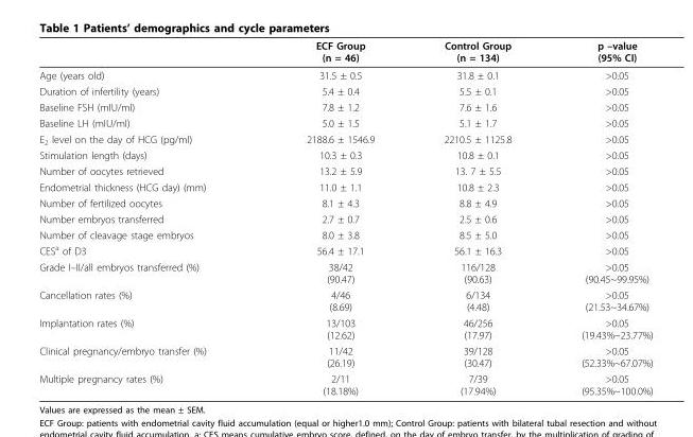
<table><thead><tr><td></td><td>ECF Group (n = 46)</td><td>Control Group (n = 134)</td><td>p –value (95% CI)</td></tr></thead><tbody><tr><td>Age (years old)</td><td>31.5 ± 0.5</td><td>31.8 ± 0.1</td><td>&gt;0.05</td></tr><tr><td>Duration of infertility (years)</td><td>5.4 ± 0.4</td><td>5.5 ± 0.1</td><td>&gt;0.05</td></tr><tr><td>Baseline FSH (mIU/ml)</td><td>7.8 ± 1.2</td><td>7.6 ± 1.6</td><td>&gt;0.05</td></tr><tr><td>Baseline LH (mIU/ml)</td><td>5.0 ± 1.5</td><td>5.1 ± 1.7</td><td>&gt;0.05</td></tr><tr><td>E<sub>2</sub> level on the day of HCG (pg/ml)</td><td>2188.6 ± 1546.9</td><td>2210.5 ± 1125.8</td><td>&gt;0.05</td></tr><tr><td>Stimulation length (days)</td><td>10.3 ± 0.3</td><td>10.8 ± 0.1</td><td>&gt;0.05</td></tr><tr><td>Number of oocytes retrieved</td><td>13.2 ± 5.9</td><td>13. 7 ± 5.5</td><td>&gt;0.05</td></tr><tr><td>Endometrial thickness (HCG day) (mm)</td><td>11.0 ± 1.1</td><td>10.8 ± 2.3</td><td>&gt;0.05</td></tr><tr><td>Number of fertilized oocytes</td><td>8.1 ± 4.3</td><td>8.8 ± 4.9</td><td>&gt;0.05</td></tr><tr><td>Number embryos transferred</td><td>2.7 ± 0.7</td><td>2.5 ± 0.6</td><td>&gt;0.05</td></tr><tr><td>Number of cleavage stage embryos</td><td>8.0 ± 3.8</td><td>8.5 ± 5.0</td><td>&gt;0.05</td></tr><tr><td>CES<sup>a</sup> of D3</td><td>56.4 ± 17.1</td><td>56.1 ± 16.3</td><td>&gt;0.05</td></tr><tr><td>Grade I–II/all embryos transferred (%)</td><td>38/42 (90.47)</td><td>116/128 (90.63)</td><td>&gt;0.05 (90.45~99.95%)</td></tr><tr><td>Cancellation rates (%)</td><td>4/46 (8.69)</td><td>6/134 (4.48)</td><td>&gt;0.05 (21.53~34.67%)</td></tr><tr><td>Implantation rates (%)</td><td>13/103 (12.62)</td><td>46/256 (17.97)</td><td>&gt;0.05 (19.43%~23.77%)</td></tr><tr><td>Clinical pregnancy/embryo transfer (%)</td><td>11/42 (26.19)</td><td>39/128 (30.47)</td><td>&gt;0.05 (52.33%~67.07%)</td></tr><tr><td>Multiple pregnancy rates (%)</td><td>2/11 (18.18%)</td><td>7/39 (17.94%)</td><td>&gt;0.05 (95.35%~100.0%)</td></tr></tbody></table>